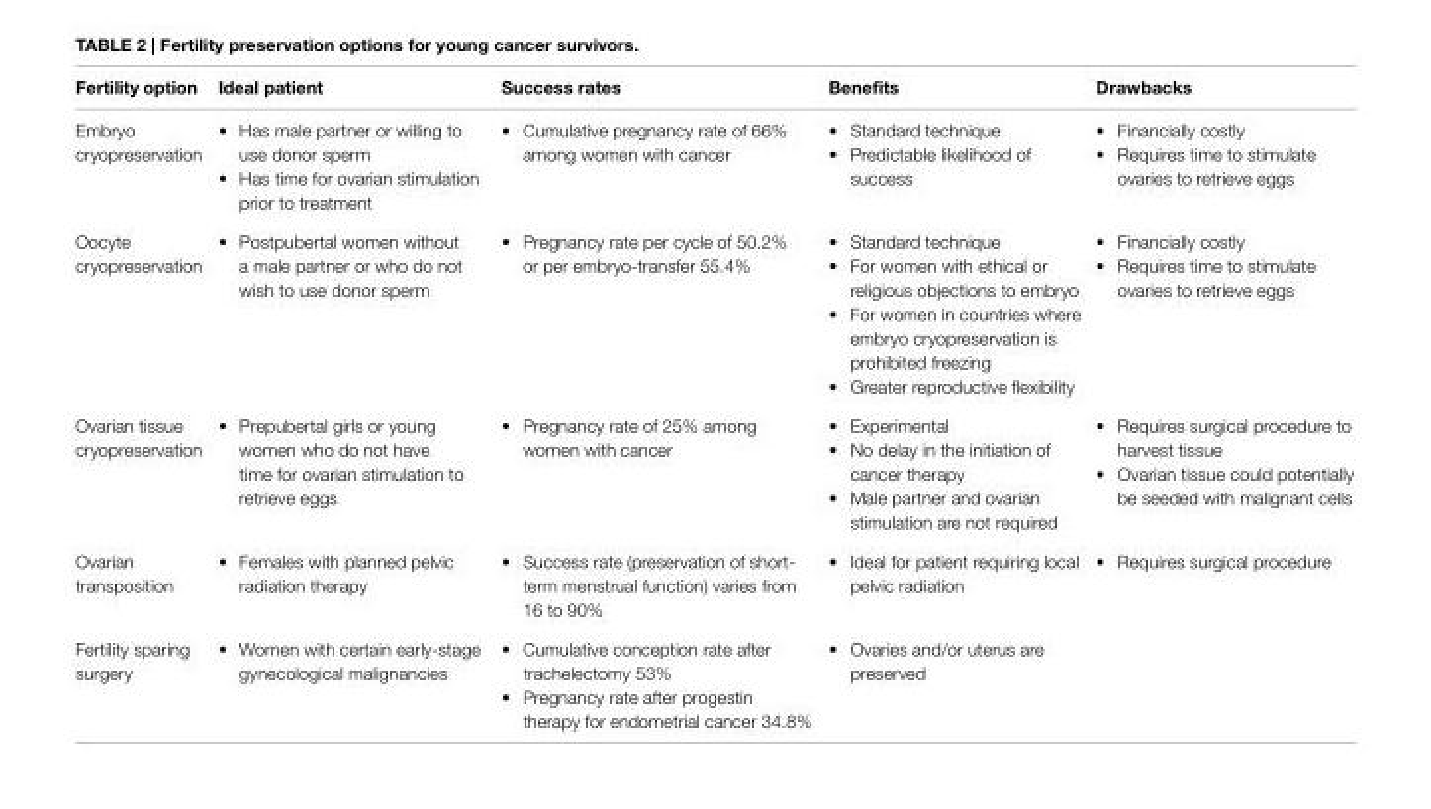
<table><thead><tr><td>Fertility option</td><td>ideal patient</td><td>Success rates</td><td>Benefits</td><td>Drawbacks</td></tr></thead><tbody><tr><td>Embryo cryopreservation</td><td>• Has male partner or willing to use donor sperm • Has time for ovarian stimulation prior to treatment</td><td>• Cumulative pregnancy rate of 66% among women with cancer</td><td>• Standard technique • Predictable likelihood of success</td><td>• Financially costly • Requires time to stimulate ovaries to retrieve eggs</td></tr><tr><td>Oocyte cryopreservation</td><td>• Postpubertal women without a male partner or who do not wish to use donor sperm</td><td>• Pregnancy rate per cycle of 50.2% or per embryo-transfer 55.4%</td><td>• Standard technique • For women with ethical or religious objections to embryo • For women in countries where embryo cryopreservation is prohibited freezing • Greater reproductive flexibility</td><td>• Financially costly • Requires time to stimulate ovaries to retrieve eggs</td></tr><tr><td>Ovarian tissue cryopreservation</td><td>• Prepubertal girls or young women who do not have time for ovarian stimulation to retrieve eggs</td><td>• Pregnancy rate of 25% among women with cancer</td><td>• Experimental • No delay in the initiation of cancer therapy • Male partner and ovarian stimulation are not required</td><td>• Requires surgical procedure to harvest tissue • Ovarian tissue could potentially be seeded with malignant cells</td></tr><tr><td>Ovarian transposition</td><td>• Females with planned pelvic radiation therapy</td><td>• Success rate (preservation of short- term menstrual function) varies from 16 to 90%</td><td>• Ideal for patient requiring local pelvic radiation</td><td>• Requires surgical procedure</td></tr><tr><td>Fertility sparing surgery</td><td>• Women with certain early-stage gynecological malignancies</td><td>• Cumulative conception rate after trachelectomy 53% • Pregnancy rate after progestin therapy for endometrial cancer 34.8%</td><td>• Ovaries and/or uterus are preserved</td><td></td></tr></tbody></table>